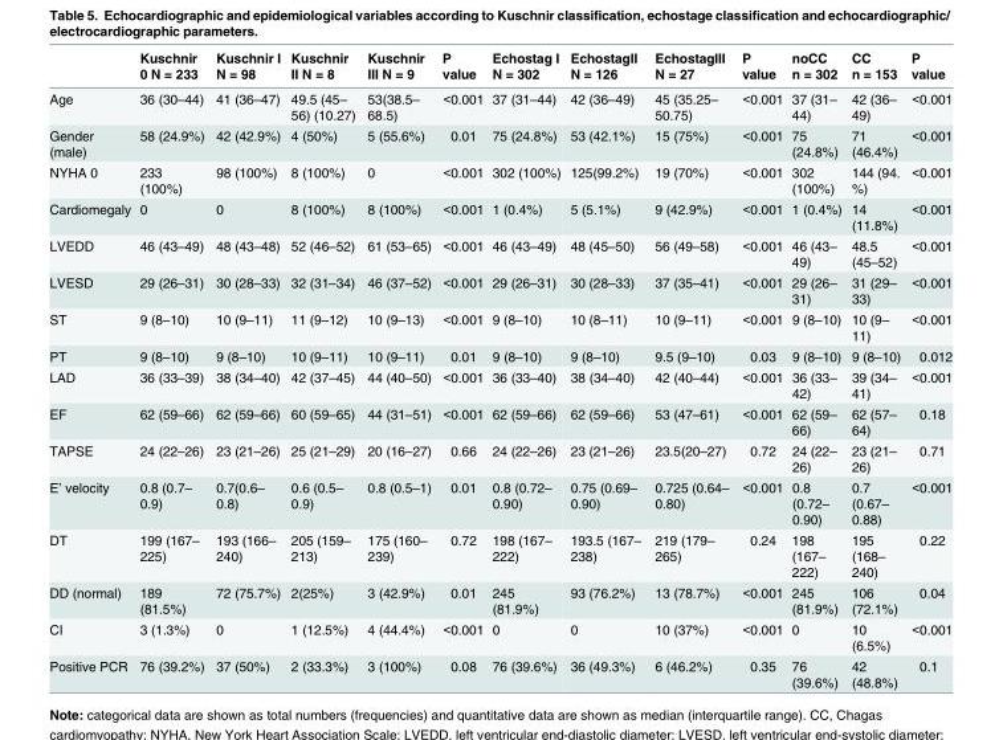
<table><thead><tr><td></td><td>Kuschnir 0 N = 233</td><td>Kuschnir I N = 98</td><td>Kuschnir II N = 8</td><td>Kuschnir III N = 9</td><td>P value</td><td>Echostag I N = 302</td><td>EchostagII N = 126</td><td>EchostagIII N = 27</td><td>P value</td><td>noCC n = 302</td><td>CC n = 153</td><td>P value</td></tr></thead><tbody><tr><td>Age</td><td>36 (30–44)</td><td>41 (36–47)</td><td>49.5 (45– 56) (10.27)</td><td>53(38.5– 68.5)</td><td>&lt;0.001</td><td>37 (31–44)</td><td>42 (36–49)</td><td>45 (35.25– 50.75)</td><td>&lt;0.001</td><td>37 (31– 44)</td><td>42 (36– 49)</td><td>&lt;0.001</td></tr><tr><td>Gender (male)</td><td>58 (24.9%)</td><td>42 (42.9%)</td><td>4 (50%)</td><td>5 (55.6%)</td><td>0.01</td><td>75 (24.8%)</td><td>53 (42.1%)</td><td>15 (75%)</td><td>&lt;0.001</td><td>75 (24.8%)</td><td>71 (46.4%)</td><td>&lt;0.001</td></tr><tr><td>NYHA 0</td><td>233 (100%)</td><td>98 (100%)</td><td>8 (100%)</td><td>0</td><td>&lt;0.001</td><td>302 (100%)</td><td>125(99.2%)</td><td>19 (70%)</td><td>&lt;0.001</td><td>302 (100%)</td><td>144 (94. %)</td><td>&lt;0.001</td></tr><tr><td>Cardiomegaly</td><td>0</td><td>0</td><td>8 (100%)</td><td>8 (100%)</td><td>&lt;0.001</td><td>1 (0.4%)</td><td>5 (5.1%)</td><td>9 (42.9%)</td><td>&lt;0.001</td><td>1 (0.4%)</td><td>14 (11.8%)</td><td>&lt;0.001</td></tr><tr><td>LVEDD</td><td>46 (43–49)</td><td>48 (43–48)</td><td>52 (46–52)</td><td>61 (53–65)</td><td>&lt;0.001</td><td>46 (43–49)</td><td>48 (45–50)</td><td>56 (49–58)</td><td>&lt;0.001</td><td>46 (43– 49)</td><td>48.5 (45–52)</td><td>&lt;0.001</td></tr><tr><td>LVESD</td><td>29 (26–31)</td><td>30 (28–33)</td><td>32 (31–34)</td><td>46 (37–52)</td><td>&lt;0.001</td><td>29 (26–31)</td><td>30 (28–33)</td><td>37 (35–41)</td><td>&lt;0.001</td><td>29 (26– 31)</td><td>31 (29– 33)</td><td>&lt;0.001</td></tr><tr><td>ST</td><td>9 (8–10)</td><td>10 (9–11)</td><td>11 (9–12)</td><td>10 (9–13)</td><td>&lt;0.001</td><td>9 (8–10)</td><td>10 (8–11)</td><td>10 (9–11)</td><td>&lt;0.001</td><td>9 (8–10)</td><td>10 (9– 11)</td><td>&lt;0.001</td></tr><tr><td>PT</td><td>9 (8–10)</td><td>9 (8–10)</td><td>10 (9–11)</td><td>10 (9–11)</td><td>0.01</td><td>9 (8–10)</td><td>9 (8–10)</td><td>9.5 (9–10)</td><td>0.03</td><td>9 (8–10)</td><td>9 (8–10)</td><td>0.012</td></tr><tr><td>LAD</td><td>36 (33–39)</td><td>38 (34–40)</td><td>42 (37–45)</td><td>44 (40–50)</td><td>&lt;0.001</td><td>36 (33–40)</td><td>38 (34–40)</td><td>42 (40–44)</td><td>&lt;0.001</td><td>36 (33– 42)</td><td>39 (34– 41)</td><td>&lt;0.001</td></tr><tr><td>EF</td><td>62 (59–66)</td><td>62 (59–66)</td><td>60 (59–65)</td><td>44 (31–51)</td><td>&lt;0.001</td><td>62 (59–66)</td><td>62 (59–66)</td><td>53 (47–61)</td><td>&lt;0.001</td><td>62 (59– 66)</td><td>62 (57– 64)</td><td>0.18</td></tr><tr><td>TAPSE</td><td>24 (22–26)</td><td>23 (21–26)</td><td>25 (21–29)</td><td>20 (16–27)</td><td>0.66</td><td>24 (22–26)</td><td>23 (21–26)</td><td>23.5(20–27)</td><td>0.72</td><td>24 (22– 26)</td><td>23 (21– 26)</td><td>0.71</td></tr><tr><td>E’ velocity</td><td>0.8 (0.7– 0.9)</td><td>0.7(0.6– 0.8)</td><td>0.6 (0.5– 0.9)</td><td>0.8 (0.5–1)</td><td>0.01</td><td>0.8 (0.72– 0.90)</td><td>0.75 (0.69– 0.90)</td><td>0.725 (0.64– 0.80)</td><td>&lt;0.001</td><td>0.8 (0.72– 0.90)</td><td>0.7 (0.67– 0.88)</td><td>&lt;0.001</td></tr><tr><td>DT</td><td>199 (167– 225)</td><td>193 (166– 240)</td><td>205 (159– 213)</td><td>175 (160– 239)</td><td>0.72</td><td>198 (167– 222)</td><td>193.5 (167– 238)</td><td>219 (179– 265)</td><td>0.24</td><td>198 (167– 222)</td><td>195 (168– 240)</td><td>0.22</td></tr><tr><td>DD (normal)</td><td>189 (81.5%)</td><td>72 (75.7%)</td><td>2(25%)</td><td>3 (42.9%)</td><td>0.01</td><td>245 (81.9%)</td><td>93 (76.2%)</td><td>13 (78.7%)</td><td>&lt;0.001</td><td>245 (81.9%)</td><td>106 (72.1%)</td><td>0.04</td></tr><tr><td>CI</td><td>3 (1.3%)</td><td>0</td><td>1 (12.5%)</td><td>4 (44.4%)</td><td>&lt;0.001</td><td>0</td><td>0</td><td>10 (37%)</td><td>&lt;0.001</td><td>0</td><td>10 (6.5%)</td><td>&lt;0.001</td></tr><tr><td>Positive PCR</td><td>76 (39.2%)</td><td>37 (50%)</td><td>2 (33.3%)</td><td>3 (100%)</td><td>0.08</td><td>76 (39.6%)</td><td>36 (49.3%)</td><td>6 (46.2%)</td><td>0.35</td><td>76 (39.6%)</td><td>42 (48.8%)</td><td>0.1</td></tr></tbody></table>